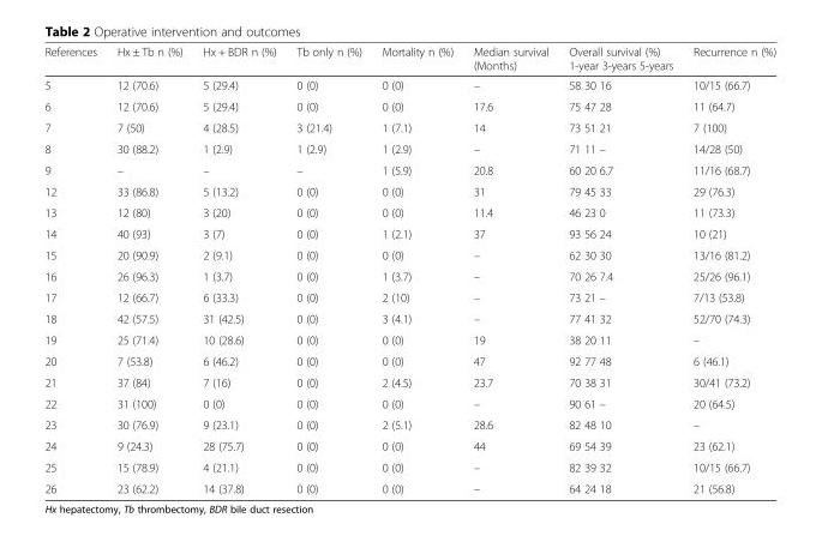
<table><thead><tr><td>References</td><td>Hx ± Tb n (%)</td><td>Hx + BDR n (%)</td><td>Tb only n (%)</td><td>Mortality n (%)</td><td>Median survival (Months)</td><td>Overall survival (%) 1-year 3-years 5-years</td><td>Recurrence n (%)</td></tr></thead><tbody><tr><td>5</td><td>12 (70.6)</td><td>5 (29.4)</td><td>0 (0)</td><td>0 (0)</td><td>–</td><td>58 30 16</td><td>10/15 (66.7)</td></tr><tr><td>6</td><td>12 (70.6)</td><td>5 (29.4)</td><td>0 (0)</td><td>0 (0)</td><td>17.6</td><td>75 47 28</td><td>11 (64.7)</td></tr><tr><td>7</td><td>7 (50)</td><td>4 (28.5)</td><td>3 (21.4)</td><td>1 (7.1)</td><td>14</td><td>73 51 21</td><td>7 (100)</td></tr><tr><td>8</td><td>30 (88.2)</td><td>1 (2.9)</td><td>1 (2.9)</td><td>1 (2.9)</td><td>–</td><td>71 11 –</td><td>14/28 (50)</td></tr><tr><td>9</td><td>–</td><td>–</td><td>–</td><td>1 (5.9)</td><td>20.8</td><td>60 20 6.7</td><td>11/16 (68.7)</td></tr><tr><td>12</td><td>33 (86.8)</td><td>5 (13.2)</td><td>0 (0)</td><td>0 (0)</td><td>31</td><td>79 45 33</td><td>29 (76.3)</td></tr><tr><td>13</td><td>12 (80)</td><td>3 (20)</td><td>0 (0)</td><td>0 (0)</td><td>11.4</td><td>46 23 0</td><td>11 (73.3)</td></tr><tr><td>14</td><td>40 (93)</td><td>3 (7)</td><td>0 (0)</td><td>1 (2.1)</td><td>37</td><td>93 56 24</td><td>10 (21)</td></tr><tr><td>15</td><td>20 (90.9)</td><td>2 (9.1)</td><td>0 (0)</td><td>0 (0)</td><td>–</td><td>62 30 30</td><td>13/16 (81.2)</td></tr><tr><td>16</td><td>26 (96.3)</td><td>1 (3.7)</td><td>0 (0)</td><td>1 (3.7)</td><td>–</td><td>70 26 7.4</td><td>25/26 (96.1)</td></tr><tr><td>17</td><td>12 (66.7)</td><td>6 (33.3)</td><td>0 (0)</td><td>2 (10)</td><td>–</td><td>73 21 –</td><td>7/13 (53.8)</td></tr><tr><td>18</td><td>42 (57.5)</td><td>31 (42.5)</td><td>0 (0)</td><td>3 (4.1)</td><td>–</td><td>77 41 32</td><td>52/70 (74.3)</td></tr><tr><td>19</td><td>25 (71.4)</td><td>10 (28.6)</td><td>0 (0)</td><td>0 (0)</td><td>19</td><td>38 20 11</td><td>–</td></tr><tr><td>20</td><td>7 (53.8)</td><td>6 (46.2)</td><td>0 (0)</td><td>0 (0)</td><td>47</td><td>92 77 48</td><td>6 (46.1)</td></tr><tr><td>21</td><td>37 (84)</td><td>7 (16)</td><td>0 (0)</td><td>2 (4.5)</td><td>23.7</td><td>70 38 31</td><td>30/41 (73.2)</td></tr><tr><td>22</td><td>31 (100)</td><td>0 (0)</td><td>0 (0)</td><td>0 (0)</td><td>–</td><td>90 61 –</td><td>20 (64.5)</td></tr><tr><td>23</td><td>30 (76.9)</td><td>9 (23.1)</td><td>0 (0)</td><td>2 (5.1)</td><td>28.6</td><td>82 48 10</td><td>–</td></tr><tr><td>24</td><td>9 (24.3)</td><td>28 (75.7)</td><td>0 (0)</td><td>0 (0)</td><td>44</td><td>69 54 39</td><td>23 (62.1)</td></tr><tr><td>25</td><td>15 (78.9)</td><td>4 (21.1)</td><td>0 (0)</td><td>0 (0)</td><td>–</td><td>82 39 32</td><td>10/15 (66.7)</td></tr><tr><td>26</td><td>23 (62.2)</td><td>14 (37.8)</td><td>0 (0)</td><td>0 (0)</td><td>–</td><td>64 24 18</td><td>21 (56.8)</td></tr></tbody></table>